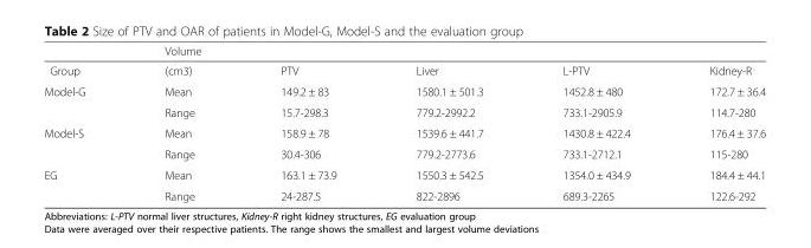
<table><thead><tr><td></td><td>Volume</td><td></td><td></td><td></td><td></td></tr></thead><tbody><tr><td>Group</td><td>(cm3)</td><td>PTV</td><td>Liver</td><td>L-PTV</td><td>Kidney-R</td></tr><tr><td rowspan="2">Model-G</td><td>Mean</td><td>149.2 ± 83</td><td>1580.1 ± 501.3</td><td>1452.8 ± 480</td><td>172.7 ± 36.4</td></tr><tr><td>Range</td><td>15.7-298.3</td><td>779.2-2992.2</td><td>733.1-2905.9</td><td>114.7-280</td></tr><tr><td rowspan="2">Model-S</td><td>Mean</td><td>158.9 ± 78</td><td>1539.6 ± 441.7</td><td>1430.8 ± 422.4</td><td>176.4 ± 37.6</td></tr><tr><td>Range</td><td>30.4-306</td><td>779.2-2773.6</td><td>733.1-2712.1</td><td>115-280</td></tr><tr><td rowspan="2">EG</td><td>Mean</td><td>163.1 ± 73.9</td><td>1550.3 ± 542.5</td><td>1354.0 ± 434.9</td><td>184.4 ± 44.1</td></tr><tr><td>Range</td><td>24-287.5</td><td>822-2896</td><td>689.3-2265</td><td>122.6-292</td></tr></tbody></table>